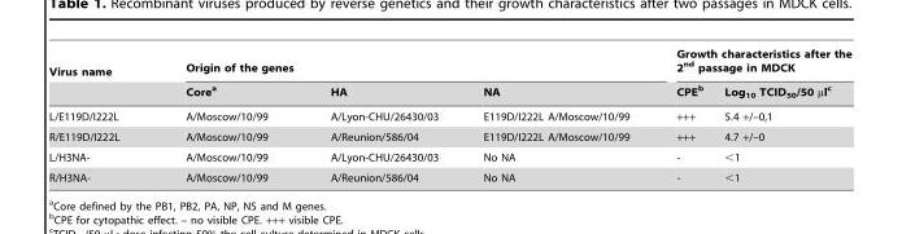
<table><thead><tr><td rowspan="2">Virus name</td><td colspan="3">Origin of the genes</td><td colspan="2">Growth characteristics after the 2<sup>nd</sup> passage in MDCK</td></tr><tr><td>Core<sup>a</sup></td><td>HA</td><td>NA</td><td>CPE<sup>b</sup></td><td>Log<sub>10</sub> TCID<sub>50</sub>/50 µl<sup>c</sup></td></tr></thead><tbody><tr><td>L/E119D/I222L</td><td>A/Moscow/10/99</td><td>A/Lyon-CHU/26430/03</td><td>E119D/I222L A/Moscow/10/99</td><td>+++</td><td>5.4 +/–0,1</td></tr><tr><td>R/E119D/I222L</td><td>A/Moscow/10/99</td><td>A/Reunion/586/04</td><td>E119D/I222L A/Moscow/10/99</td><td>+++</td><td>4.7 +/–0</td></tr><tr><td>L/H3NA-</td><td>A/Moscow/10/99</td><td>A/Lyon-CHU/26430/03</td><td>No NA</td><td>-</td><td>&lt;1</td></tr><tr><td>R/H3NA-</td><td>A/Moscow/10/99</td><td>A/Reunion/586/04</td><td>No NA</td><td>-</td><td>&lt;1</td></tr></tbody></table>